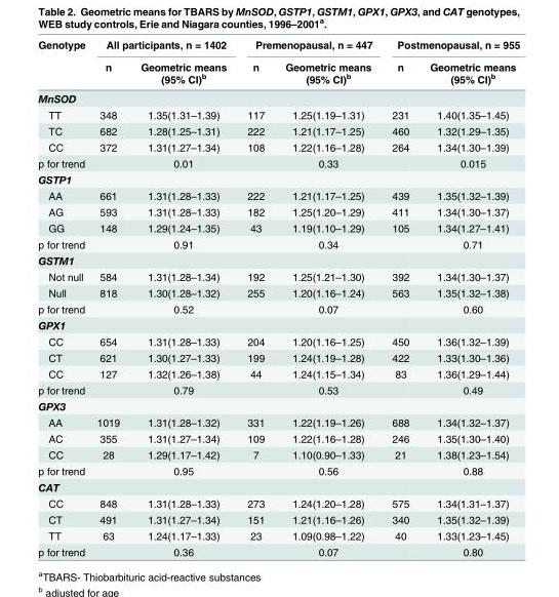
<table><thead><tr><td rowspan="2">Genotype</td><td colspan="2">All participants, n = 1402</td><td colspan="2">Premenopausal, n = 447</td><td colspan="2">Postmenopausal, n = 955</td></tr><tr><td>n</td><td>Geometric means (95% CI)<sup>b</sup></td><td>n</td><td>Geometric means (95% CI)<sup>b</sup></td><td>n</td><td>Geometric means (95% CI)<sup>b</sup></td></tr></thead><tbody><tr><td colspan="7">MnSOD</td></tr><tr><td>TT</td><td>348</td><td>1.35(1.31–1.39)</td><td>117</td><td>1.25(1.19–1.31)</td><td>231</td><td>1.40(1.35–1.45)</td></tr><tr><td>TC</td><td>682</td><td>1.28(1.25–1.31)</td><td>222</td><td>1.21(1.17–1.25)</td><td>460</td><td>1.32(1.29–1.35)</td></tr><tr><td>CC</td><td>372</td><td>1.31(1.27–1.34)</td><td>108</td><td>1.22(1.16–1.28)</td><td>264</td><td>1.34(1.30–1.39)</td></tr><tr><td>p for trend</td><td></td><td>0.01</td><td></td><td>0.33</td><td></td><td>0.015</td></tr><tr><td colspan="7">GSTP1</td></tr><tr><td>AA</td><td>661</td><td>1.31(1.28–1.33)</td><td>222</td><td>1.21(1.17–1.25)</td><td>439</td><td>1.35(1.32–1.39)</td></tr><tr><td>AG</td><td>593</td><td>1.31(1.28–1.33)</td><td>182</td><td>1.25(1.20–1.29)</td><td>411</td><td>1.34(1.30–1.37)</td></tr><tr><td>GG</td><td>148</td><td>1.29(1.24–1.35)</td><td>43</td><td>1.19(1.10–1.29)</td><td>105</td><td>1.34(1.27–1.41)</td></tr><tr><td>p for trend</td><td></td><td>0.91</td><td></td><td>0.34</td><td></td><td>0.71</td></tr><tr><td colspan="7">GSTM1</td></tr><tr><td>Not null</td><td>584</td><td>1.31(1.28–1.34)</td><td>192</td><td>1.25(1.21–1.30)</td><td>392</td><td>1.34(1.30–1.37)</td></tr><tr><td>Null</td><td>818</td><td>1.30(1.28–1.32)</td><td>255</td><td>1.20(1.16–1.24)</td><td>563</td><td>1.35(1.32–1.38)</td></tr><tr><td>p for trend</td><td></td><td>0.52</td><td></td><td>0.07</td><td></td><td>0.60</td></tr><tr><td colspan="7">GPX1</td></tr><tr><td>CC</td><td>654</td><td>1.31(1.28–1.33)</td><td>204</td><td>1.20(1.16–1.25)</td><td>450</td><td>1.36(1.32–1.39)</td></tr><tr><td>CT</td><td>621</td><td>1.30(1.27–1.33)</td><td>199</td><td>1.24(1.19–1.28)</td><td>422</td><td>1.33(1.30–1.36)</td></tr><tr><td>CC</td><td>127</td><td>1.32(1.26–1.38)</td><td>44</td><td>1.24(1.15–1.34)</td><td>83</td><td>1.36(1.29–1.44)</td></tr><tr><td>p for trend</td><td></td><td>0.79</td><td></td><td>0.53</td><td></td><td>0.49</td></tr><tr><td colspan="7">GPX3</td></tr><tr><td>AA</td><td>1019</td><td>1.31(1.28–1.32)</td><td>331</td><td>1.22(1.19–1.26)</td><td>688</td><td>1.34(1.32–1.37)</td></tr><tr><td>AC</td><td>355</td><td>1.31(1.27–1.34)</td><td>109</td><td>1.22(1.16–1.28)</td><td>246</td><td>1.35(1.30–1.40)</td></tr><tr><td>CC</td><td>28</td><td>1.29(1.17–1.42)</td><td>7</td><td>1.10(0.90–1.33)</td><td>21</td><td>1.38(1.23–1.54)</td></tr><tr><td>p for trend</td><td></td><td>0.95</td><td></td><td>0.56</td><td></td><td>0.88</td></tr><tr><td colspan="7">CAT</td></tr><tr><td>CC</td><td>848</td><td>1.31(1.28–1.33)</td><td>273</td><td>1.24(1.20–1.28)</td><td>575</td><td>1.34(1.31–1.37)</td></tr><tr><td>CT</td><td>491</td><td>1.31(1.27–1.34)</td><td>151</td><td>1.21(1.16–1.26)</td><td>340</td><td>1.35(1.32–1.39)</td></tr><tr><td>TT</td><td>63</td><td>1.24(1.17–1.33)</td><td>23</td><td>1.09(0.98–1.22)</td><td>40</td><td>1.33(1.23–1.45)</td></tr><tr><td>p for trend</td><td></td><td>0.36</td><td></td><td>0.07</td><td></td><td>0.80</td></tr></tbody></table>